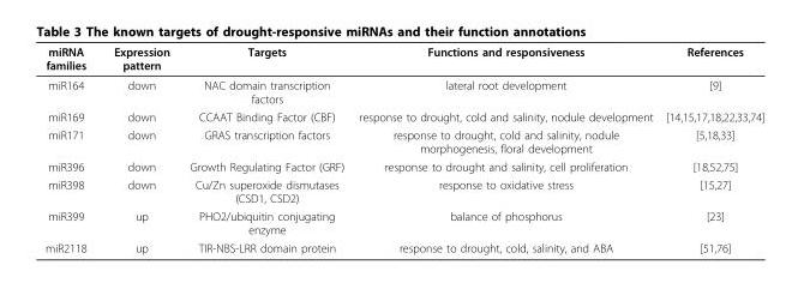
<table><thead><tr><td>miRNA families</td><td>Expression pattern</td><td>Targets</td><td>Functions and responsiveness</td><td>References</td></tr></thead><tbody><tr><td>miR164</td><td>down</td><td>NAC domain transcription factors</td><td>lateral root development</td><td>[9]</td></tr><tr><td>miR169</td><td>down</td><td>CCAAT Binding Factor (CBF)</td><td>response to drought, cold and salinity, nodule development</td><td>[14,15,17,18,22,33,74]</td></tr><tr><td>miR171</td><td>down</td><td>GRAS transcription factors</td><td>response to drought, cold and salinity, nodule morphogenesis, floral development</td><td>[5,18,33]</td></tr><tr><td>miR396</td><td>down</td><td>Growth Regulating Factor (GRF)</td><td>response to drought and salinity, cell proliferation</td><td>[18,52,75]</td></tr><tr><td>miR398</td><td>down</td><td>Cu/Zn superoxide dismutases (CSD1, CSD2)</td><td>response to oxidative stress</td><td>[15,27]</td></tr><tr><td>miR399</td><td>up</td><td>PHO2/ubiquitin conjugating enzyme</td><td>balance of phosphorus</td><td>[23]</td></tr><tr><td>miR2118</td><td>up</td><td>TIR-NBS-LRR domain protein</td><td>response to drought, cold, salinity, and ABA</td><td>[51,76]</td></tr></tbody></table>